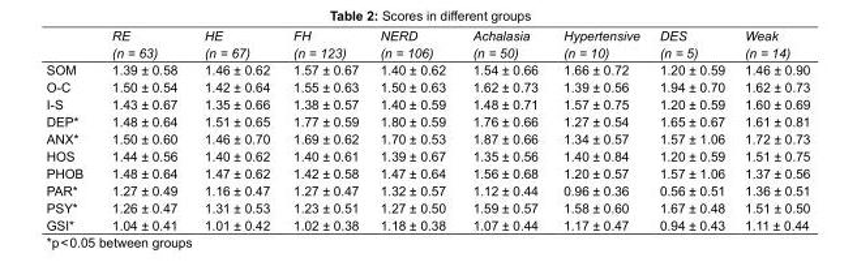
<table><thead><tr><td></td><td>(n = 63)</td><td>(n = 67)</td><td>(n = 123)</td><td>(n = 106)</td><td>(n = 50)</td><td>(n = 10)</td><td>(n = 5)</td><td>(n = 14)</td></tr></thead><tbody><tr><td>SOM</td><td>1.39 ± 0.58</td><td>1.46 ± 0.62</td><td>1.57 ± 0.67</td><td>1.40 ± 0.62</td><td>1.54 ± 0.66</td><td>1.66 ± 0.72</td><td>1.20 ± 0.59</td><td>1.46 ± 0.90</td></tr><tr><td>O-C</td><td>1.50 ± 0.54</td><td>1.42 ± 0.64</td><td>1.55 ± 0.63</td><td>1.50 ± 0.63</td><td>1.62 ± 0.73</td><td>1.39 ± 0.56</td><td>1.94 ± 0.70</td><td>1.62 ± 0.73</td></tr><tr><td>I-S</td><td>1.43 ± 0.67</td><td>1.35 ± 0.66</td><td>1.38 ± 0.57</td><td>1.40 ± 0.59</td><td>1.48 ± 0.71</td><td>1.57 ± 0.75</td><td>1.20 ± 0.59</td><td>1.60 ± 0.69</td></tr><tr><td>DEP*</td><td>1.48 ± 0.64</td><td>1.51 ± 0.65</td><td>1.77 ± 0.59</td><td>1.80 ± 0.59</td><td>1.76 ± 0.66</td><td>1.27 ± 0.54</td><td>1.65 ± 0.67</td><td>1.61 ± 0.81</td></tr><tr><td>ANX*</td><td>1.50 ± 0.60</td><td>1.46 ± 0.70</td><td>1.69 ± 0.62</td><td>1.70 ± 0.53</td><td>1.87 ± 0.66</td><td>1.34 ± 0.57</td><td>1.57 ± 1.06</td><td>1.72 ± 0.73</td></tr><tr><td>HOS</td><td>1.44 ± 0.56</td><td>1.40 ± 0.62</td><td>1.40 ± 0.61</td><td>1.39 ± 0.67</td><td>1.35 ± 0.56</td><td>1.40 ± 0.84</td><td>1.20 ± 0.59</td><td>1.51 ± 0.75</td></tr><tr><td>PHOB</td><td>1.48 ± 0.64</td><td>1.47 ± 0.62</td><td>1.42 ± 0.58</td><td>1.47 ± 0.64</td><td>1.56 ± 0.68</td><td>1.20 ± 0.57</td><td>1.57 ± 1.06</td><td>1.37 ± 0.56</td></tr><tr><td>PAR*</td><td>1.27 ± 0.49</td><td>1.16 ± 0.47</td><td>1.27 ± 0.47</td><td>1.32 ± 0.57</td><td>1.12 ± 0.44</td><td>0.96 ± 0.36</td><td>0.56 ± 0.51</td><td>1.36 ± 0.51</td></tr><tr><td>PSY*</td><td>1.26 ± 0.47</td><td>1.31 ± 0.53</td><td>1.23 ± 0.51</td><td>1.27 ± 0.50</td><td>1.59 ± 0.57</td><td>1.58 ± 0.60</td><td>1.67 ± 0.48</td><td>1.51 ± 0.50</td></tr><tr><td>GSI*</td><td>1.04 ± 0.41</td><td>1.01 ± 0.42</td><td>1.02 ± 0.38</td><td>1.18 ± 0.38</td><td>1.07 ± 0.44</td><td>1.17 ± 0.47</td><td>0.94 ± 0.43</td><td>1.11 ± 0.44</td></tr></tbody></table>